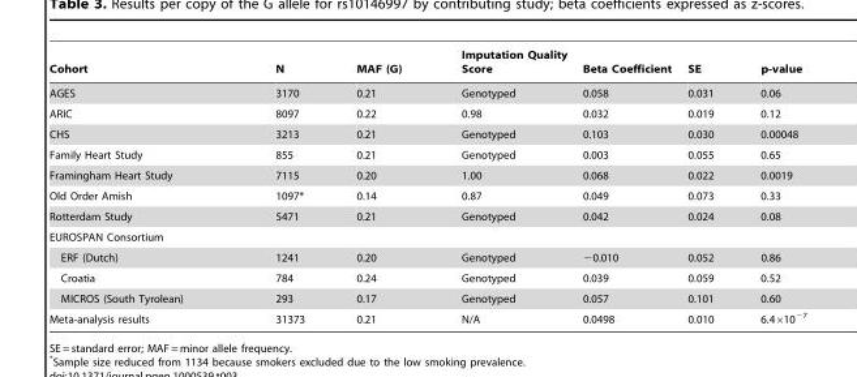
<table><thead><tr><td>Cohort</td><td>N</td><td>MAF (G)</td><td>Imputation Quality Score</td><td>Beta Coefficient</td><td>SE</td><td>p-value</td></tr></thead><tbody><tr><td>AGES</td><td>3170</td><td>0.21</td><td>Genotyped</td><td>0.058</td><td>0.031</td><td>0.06</td></tr><tr><td>ARIC</td><td>8097</td><td>0.22</td><td>0.98</td><td>0.032</td><td>0.019</td><td>0.12</td></tr><tr><td>CHS</td><td>3213</td><td>0.21</td><td>Genotyped</td><td>0.103</td><td>0.030</td><td>0.00048</td></tr><tr><td>Family Heart Study</td><td>855</td><td>0.21</td><td>Genotyped</td><td>0.003</td><td>0.055</td><td>0.65</td></tr><tr><td>Framingham Heart Study</td><td>7115</td><td>0.20</td><td>1.00</td><td>0.068</td><td>0.022</td><td>0.0019</td></tr><tr><td>Old Order Amish</td><td>1097*</td><td>0.14</td><td>0.87</td><td>0.049</td><td>0.073</td><td>0.33</td></tr><tr><td>Rotterdam Study</td><td>5471</td><td>0.21</td><td>Genotyped</td><td>0.042</td><td>0.024</td><td>0.08</td></tr><tr><td colspan="7">EUROSPAN Consortium</td></tr><tr><td>ERF (Dutch)</td><td>1241</td><td>0.20</td><td>Genotyped</td><td>−0.010</td><td>0.052</td><td>0.86</td></tr><tr><td>Croatia</td><td>784</td><td>0.24</td><td>Genotyped</td><td>0.039</td><td>0.059</td><td>0.52</td></tr><tr><td>MICROS (South Tyrolean)</td><td>293</td><td>0.17</td><td>Genotyped</td><td>0.057</td><td>0.101</td><td>0.60</td></tr><tr><td>Meta-analysis results</td><td>31373</td><td>0.21</td><td>N/A</td><td>0.0498</td><td>0.010</td><td>6.4×10<sup>−7</sup></td></tr></tbody></table>